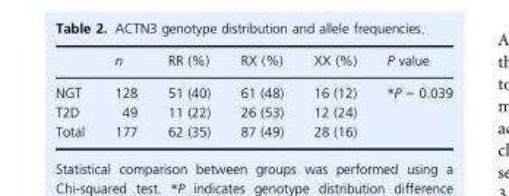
<table><thead><tr><td></td><td>n</td><td>RR (%)</td><td>RX (%)</td><td>XX (%)</td><td>P value</td></tr></thead><tbody><tr><td>NGT</td><td>128</td><td>51 (40)</td><td>61 (48)</td><td>16 (12)</td><td rowspan="2">*P = 0.039</td></tr><tr><td>T2D</td><td>49</td><td>11 (22)</td><td>26 (53)</td><td>12 (24)</td></tr><tr><td>Total</td><td>177</td><td>62 (35)</td><td>87 (49)</td><td>28 (16)</td><td></td></tr></tbody></table>